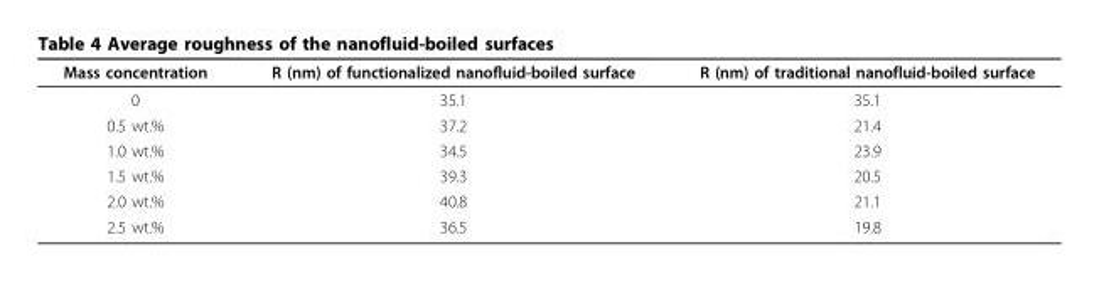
<table><thead><tr><td>Mass concentration</td><td>R (nm) of functionalized nanofluid-boiled surface</td><td>R (nm) of traditional nanofluid-boiled surface</td></tr></thead><tbody><tr><td>0</td><td>35.1</td><td>35.1</td></tr><tr><td>0.5 wt.%</td><td>37.2</td><td>21.4</td></tr><tr><td>1.0 wt.%</td><td>34.5</td><td>23.9</td></tr><tr><td>1.5 wt.%</td><td>39.3</td><td>20.5</td></tr><tr><td>2.0 wt.%</td><td>40.8</td><td>21.1</td></tr><tr><td>2.5 wt.%</td><td>36.5</td><td>19.8</td></tr></tbody></table>